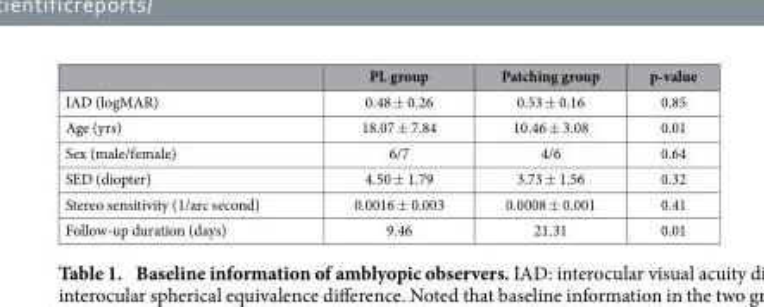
<table><thead><tr><td></td><td>PL group</td><td>Patching group</td><td>p-value</td></tr></thead><tbody><tr><td>IAD (logMAR)</td><td>0.48 ± 0.26</td><td>0.53 ± 0.16</td><td>0.85</td></tr><tr><td>Age (yrs)</td><td>18.07 ± 7.84</td><td>10.46 ± 3.08</td><td>0.01</td></tr><tr><td>Sex (male/female)</td><td>6/7</td><td>4/6</td><td>0.64</td></tr><tr><td>SED (diopter)</td><td>4.50 ± 1.79</td><td>3.73 ± 1.56</td><td>0.32</td></tr><tr><td>Stereo sensitivity (1/arc second)</td><td>0.0016 ± 0.003</td><td>0.0008 ± 0.001</td><td>0.41</td></tr><tr><td>Follow-up duration (days)</td><td>9.46</td><td>21.31</td><td>0.01</td></tr></tbody></table>